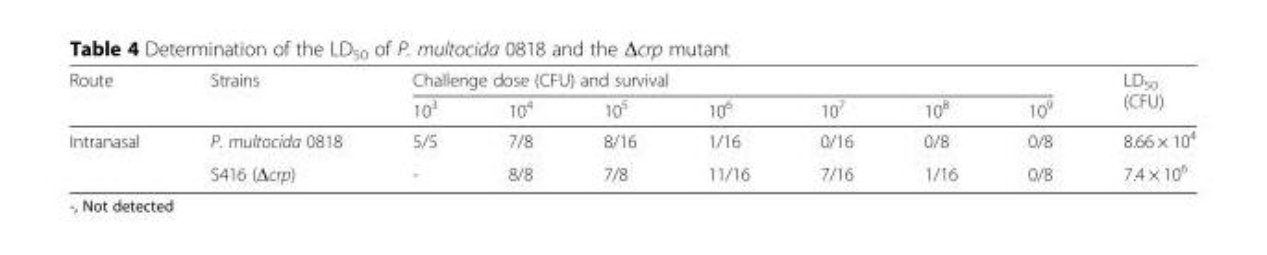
<table><thead><tr><td rowspan="2">Route</td><td rowspan="2">Strains</td><td colspan="7">Challenge dose (CFU) and survival</td><td rowspan="2">LD<sub>50</sub> (CFU)</td></tr><tr><td>10<sup>3</sup></td><td>10<sup>4</sup></td><td>10<sup>5</sup></td><td>10<sup>6</sup></td><td>10<sup>7</sup></td><td>10<sup>8</sup></td><td>10<sup>9</sup></td></tr></thead><tbody><tr><td rowspan="2">Intranasal</td><td>P. multocida 0818</td><td>5/5</td><td>7/8</td><td>8/16</td><td>1/16</td><td>0/16</td><td>0/8</td><td>0/8</td><td>8.66 × 10<sup>4</sup></td></tr><tr><td>S416 (Δcrp)</td><td>-</td><td>8/8</td><td>7/8</td><td>11/16</td><td>7/16</td><td>1/16</td><td>0/8</td><td>7.4 × 10<sup>6</sup></td></tr></tbody></table>